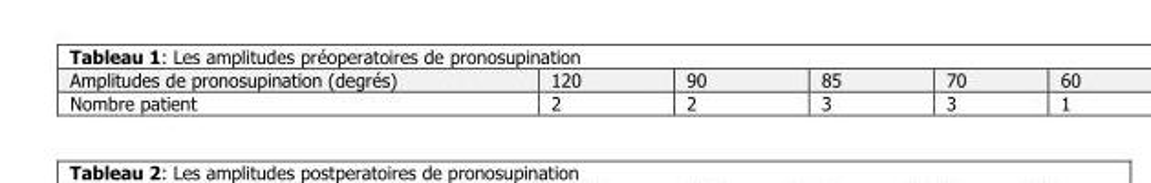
<table><tbody><tr><td>Amplitudes de pronosupination (degrés)</td><td>120</td><td>90</td><td>85</td><td>70</td><td>60</td></tr><tr><td>Nombre patient</td><td>2</td><td>2</td><td>3</td><td>3</td><td>1</td></tr></tbody></table>